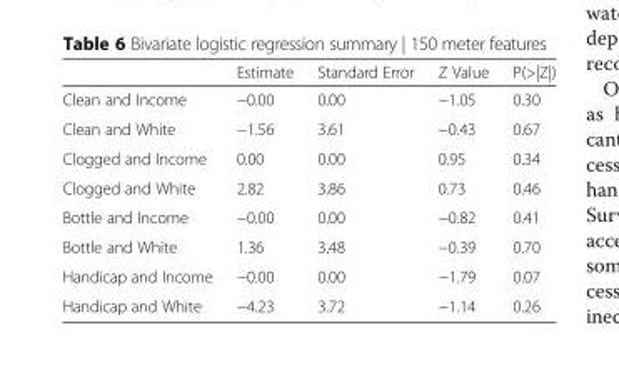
<table><thead><tr><td></td><td>Estimate</td><td>Standard Error</td><td>Z Value</td><td>P(&gt;|Z|)</td></tr></thead><tbody><tr><td>Clean and Income</td><td>−0.00</td><td>0.00</td><td>−1.05</td><td>0.30</td></tr><tr><td>Clean and White</td><td>−1.56</td><td>3.61</td><td>−0.43</td><td>0.67</td></tr><tr><td>Clogged and Income</td><td>0.00</td><td>0.00</td><td>0.95</td><td>0.34</td></tr><tr><td>Clogged and White</td><td>2.82</td><td>3.86</td><td>0.73</td><td>0.46</td></tr><tr><td>Bottle and Income</td><td>−0.00</td><td>0.00</td><td>−0.82</td><td>0.41</td></tr><tr><td>Bottle and White</td><td>1.36</td><td>3.48</td><td>−0.39</td><td>0.70</td></tr><tr><td>Handicap and Income</td><td>−0.00</td><td>0.00</td><td>−1.79</td><td>0.07</td></tr><tr><td>Handicap and White</td><td>−4.23</td><td>3.72</td><td>−1.14</td><td>0.26</td></tr></tbody></table>